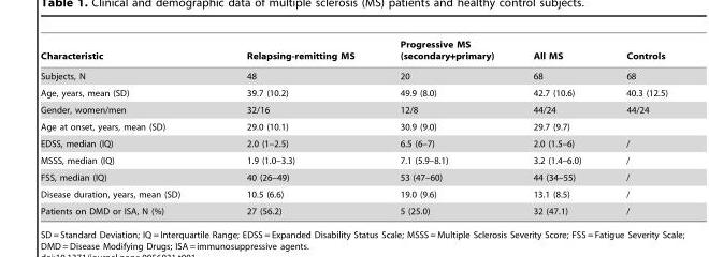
<table><thead><tr><td>Characteristic</td><td>Relapsing-remitting MS</td><td>Progressive MS (secondary+primary)</td><td>All MS</td><td>Controls</td></tr></thead><tbody><tr><td>Subjects, N</td><td>48</td><td>20</td><td>68</td><td>68</td></tr><tr><td>Age, years, mean (SD)</td><td>39.7 (10.2)</td><td>49.9 (8.0)</td><td>42.7 (10.6)</td><td>40.3 (12.5)</td></tr><tr><td>Gender, women/men</td><td>32/16</td><td>12/8</td><td>44/24</td><td>44/24</td></tr><tr><td>Age at onset, years, mean (SD)</td><td>29.0 (10.1)</td><td>30.9 (9.0)</td><td>29.7 (9.7)</td><td></td></tr><tr><td>EDSS, median (IQ)</td><td>2.0 (1–2.5)</td><td>6.5 (6–7)</td><td>2.0 (1.5–6)</td><td>/</td></tr><tr><td>MSSS, median (IQ)</td><td>1.9 (1.0–3.3)</td><td>7.1 (5.9–8.1)</td><td>3.2 (1.4–6.0)</td><td>/</td></tr><tr><td>FSS, median (IQ)</td><td>40 (26–49)</td><td>53 (47–60)</td><td>44 (34–55)</td><td>/</td></tr><tr><td>Disease duration, years, mean (SD)</td><td>10.5 (6.6)</td><td>19.0 (9.6)</td><td>13.1 (8.5)</td><td>/</td></tr><tr><td>Patients on DMD or ISA, N (%)</td><td>27 (56.2)</td><td>5 (25.0)</td><td>32 (47.1)</td><td>/</td></tr></tbody></table>